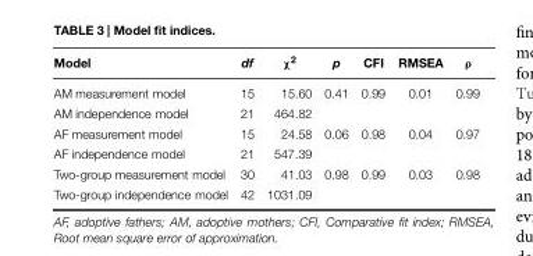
<table><thead><tr><td>Model</td><td>df</td><td>χ<sup>2</sup></td><td>p</td><td>CFI</td><td>RMSEA</td><td>ρ</td></tr></thead><tbody><tr><td>AM measurement model</td><td>15</td><td>15.60</td><td>0.41</td><td>0.99</td><td>0.01</td><td>0.99</td></tr><tr><td>AM independence model</td><td>21</td><td>464.82</td><td></td><td></td><td></td><td></td></tr><tr><td>AF measurement model</td><td>15</td><td>24.58</td><td>0.06</td><td>0.98</td><td>0.04</td><td>0.97</td></tr><tr><td>AF independence model</td><td>21</td><td>547.39</td><td></td><td></td><td></td><td></td></tr><tr><td>Two-group measurement model</td><td>30</td><td>41.03</td><td>0.98</td><td>0.99</td><td>0.03</td><td>0.98</td></tr><tr><td>Two-group independence model</td><td>42</td><td>1031.09</td><td></td><td></td><td></td><td></td></tr></tbody></table>